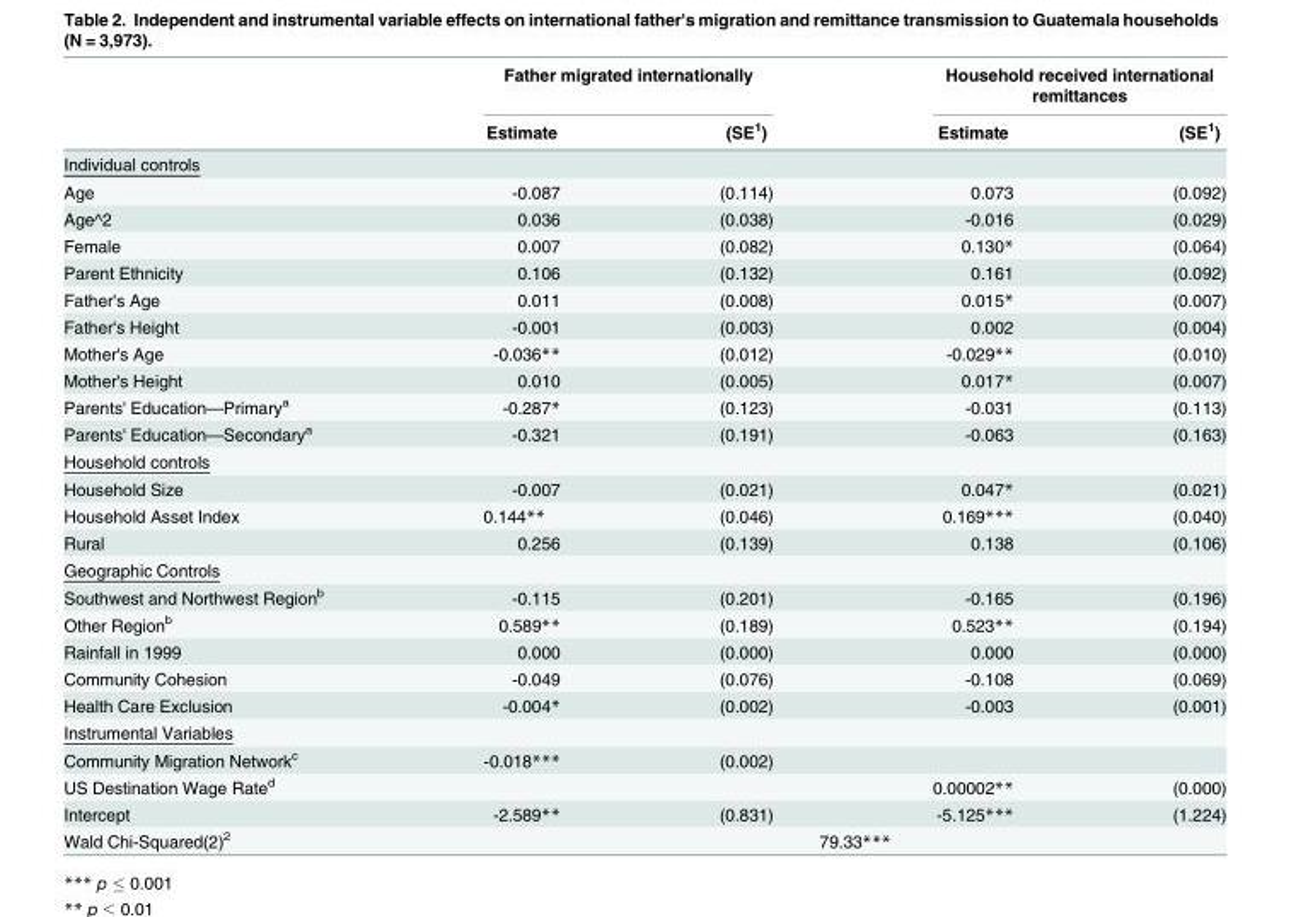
<table><thead><tr><td rowspan="2"></td><td colspan="2">Father migrated internationally</td><td colspan="2">Household received international remittances</td></tr><tr><td>Estimate</td><td>(SE<sup>1</sup>)</td><td>Estimate</td><td>(SE<sup>1</sup>)</td></tr></thead><tbody><tr><td colspan="5">Individual controls</td></tr><tr><td>Age</td><td>-0.087</td><td>(0.114)</td><td>0.073</td><td>(0.092)</td></tr><tr><td>Age^2</td><td>0.036</td><td>(0.038)</td><td>-0.016</td><td>(0.029)</td></tr><tr><td>Female</td><td>0.007</td><td>(0.082)</td><td>0.130*</td><td>(0.064)</td></tr><tr><td>Parent Ethnicity</td><td>0.106</td><td>(0.132)</td><td>0.161</td><td>(0.092)</td></tr><tr><td>Father&#x27;s Age</td><td>0.011</td><td>(0.008)</td><td>0.015*</td><td>(0.007)</td></tr><tr><td>Father&#x27;s Height</td><td>-0.001</td><td>(0.003)</td><td>0.002</td><td>(0.004)</td></tr><tr><td>Mother&#x27;s Age</td><td>-0.036**</td><td>(0.012)</td><td>-0.029**</td><td>(0.010)</td></tr><tr><td>Mother&#x27;s Height</td><td>0.010</td><td>(0.005)</td><td>0.017*</td><td>(0.007)</td></tr><tr><td>Parents&#x27; Education—Primary<sup>a</sup></td><td>-0.287*</td><td>(0.123)</td><td>-0.031</td><td>(0.113)</td></tr><tr><td>Parents&#x27; Education—Secondary<sup>a</sup></td><td>-0.321</td><td>(0.191)</td><td>-0.063</td><td>(0.163)</td></tr><tr><td colspan="5">Household controls</td></tr><tr><td>Household Size</td><td>-0.007</td><td>(0.021)</td><td>0.047*</td><td>(0.021)</td></tr><tr><td>Household Asset Index</td><td>0.144**</td><td>(0.046)</td><td>0.169***</td><td>(0.040)</td></tr><tr><td>Rural</td><td>0.256</td><td>(0.139)</td><td>0.138</td><td>(0.106)</td></tr><tr><td colspan="5">Geographic Controls</td></tr><tr><td>Southwest and Northwest Region<sup>b</sup></td><td>-0.115</td><td>(0.201)</td><td>-0.165</td><td>(0.196)</td></tr><tr><td>Other Region<sup>b</sup></td><td>0.589**</td><td>(0.189)</td><td>0.523**</td><td>(0.194)</td></tr><tr><td>Rainfall in 1999</td><td>0.000</td><td>(0.000)</td><td>0.000</td><td>(0.000)</td></tr><tr><td>Community Cohesion</td><td>-0.049</td><td>(0.076)</td><td>-0.108</td><td>(0.069)</td></tr><tr><td>Health Care Exclusion</td><td>-0.004*</td><td>(0.002)</td><td>-0.003</td><td>(0.001)</td></tr><tr><td colspan="5">Instrumental Variables</td></tr><tr><td>Community Migration Network<sup>c</sup></td><td>-0.018***</td><td>(0.002)</td><td></td><td></td></tr><tr><td>US Destination Wage Rate<sup>d</sup></td><td></td><td></td><td>0.00002**</td><td>(0.000)</td></tr><tr><td>Intercept</td><td>-2.589**</td><td>(0.831)</td><td>-5.125***</td><td>(1.224)</td></tr><tr><td>Wald Chi-Squared(2)<sup>2</sup></td><td colspan="4">79.33***</td></tr></tbody></table>